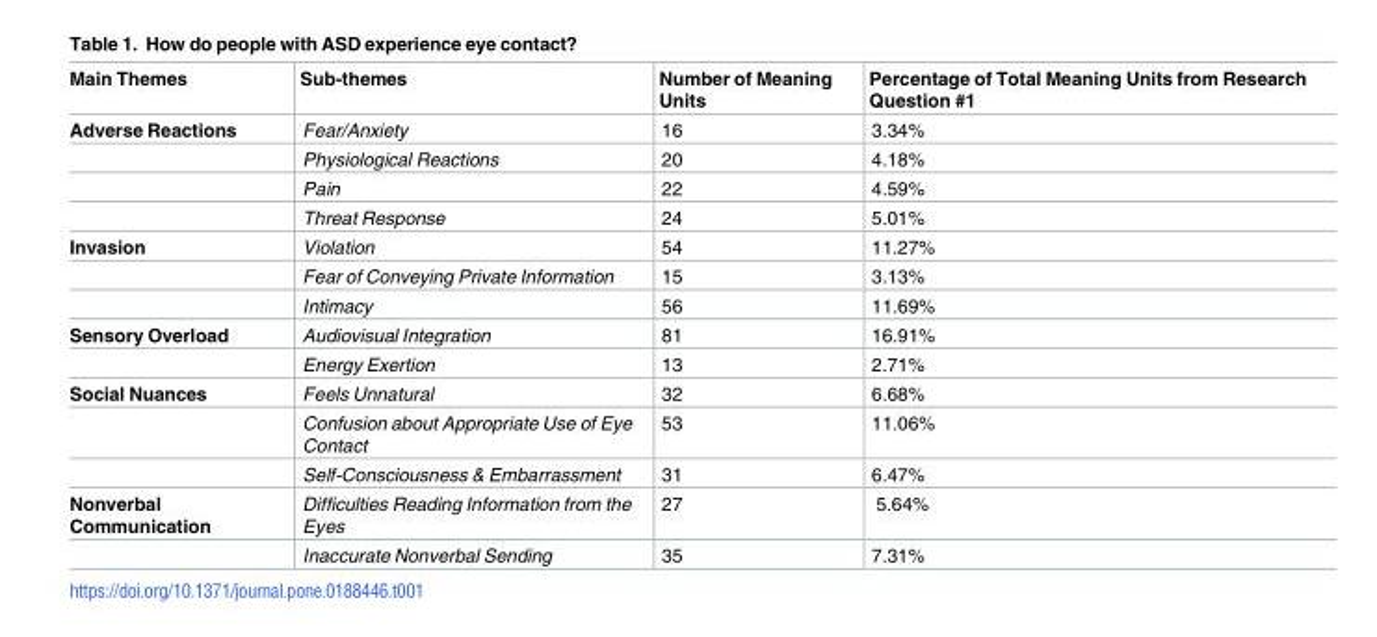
<table><thead><tr><td>Main Themes</td><td>Sub-themes</td><td>Number of Meaning Units</td><td>Percentage of Total Meaning Units from Research Question #1</td></tr></thead><tbody><tr><td rowspan="4">Adverse Reactions</td><td>Fear/Anxiety</td><td>16</td><td>3.34%</td></tr><tr><td>Physiological Reactions</td><td>20</td><td>4.18%</td></tr><tr><td>Pain</td><td>22</td><td>4.59%</td></tr><tr><td>Threat Response</td><td>24</td><td>5.01%</td></tr><tr><td rowspan="3">Invasion</td><td>Violation</td><td>54</td><td>11.27%</td></tr><tr><td>Fear of Conveying Private Information</td><td>15</td><td>3.13%</td></tr><tr><td>Intimacy</td><td>56</td><td>11.69%</td></tr><tr><td rowspan="2">Sensory Overload</td><td>Audiovisual Integration</td><td>81</td><td>16.91%</td></tr><tr><td>Energy Exertion</td><td>13</td><td>2.71%</td></tr><tr><td rowspan="3">Social Nuances</td><td>Feels Unnatural</td><td>32</td><td>6.68%</td></tr><tr><td>Confusion about Appropriate Use of Eye Contact</td><td>53</td><td>11.06%</td></tr><tr><td>Self-Consciousness &amp; Embarrassment</td><td>31</td><td>6.47%</td></tr><tr><td rowspan="2">Nonverbal Communication</td><td>Difficulties Reading Information from the Eyes</td><td>27</td><td>5.64%</td></tr><tr><td>Inaccurate Nonverbal Sending</td><td>35</td><td>7.31%</td></tr></tbody></table>